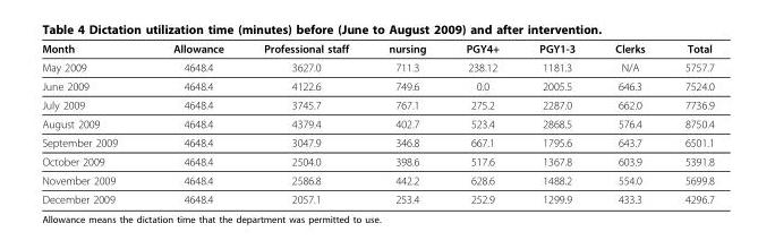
<table><thead><tr><td>Month</td><td>Allowance</td><td>Professional staff</td><td>nursing</td><td>PGY4+</td><td>PGY1-3</td><td>Clerks</td><td>Total</td></tr></thead><tbody><tr><td>May 2009</td><td>4648.4</td><td>3627.0</td><td>711.3</td><td>238.12</td><td>1181.3</td><td>N/A</td><td>5757.7</td></tr><tr><td>June 2009</td><td>4648.4</td><td>4122.6</td><td>749.6</td><td>0.0</td><td>2005.5</td><td>646.3</td><td>7524.0</td></tr><tr><td>July 2009</td><td>4648.4</td><td>3745.7</td><td>767.1</td><td>275.2</td><td>2287.0</td><td>662.0</td><td>7736.9</td></tr><tr><td>August 2009</td><td>4648.4</td><td>4379.4</td><td>402.7</td><td>523.4</td><td>2868.5</td><td>576.4</td><td>8750.4</td></tr><tr><td>September 2009</td><td>4648.4</td><td>3047.9</td><td>346.8</td><td>667.1</td><td>1795.6</td><td>643.7</td><td>6501.1</td></tr><tr><td>October 2009</td><td>4648.4</td><td>2504.0</td><td>398.6</td><td>517.6</td><td>1367.8</td><td>603.9</td><td>5391.8</td></tr><tr><td>November 2009</td><td>4648.4</td><td>2586.8</td><td>442.2</td><td>628.6</td><td>1488.2</td><td>554.0</td><td>5699.8</td></tr><tr><td>December 2009</td><td>4648.4</td><td>2057.1</td><td>253.4</td><td>252.9</td><td>1299.9</td><td>433.3</td><td>4296.7</td></tr></tbody></table>